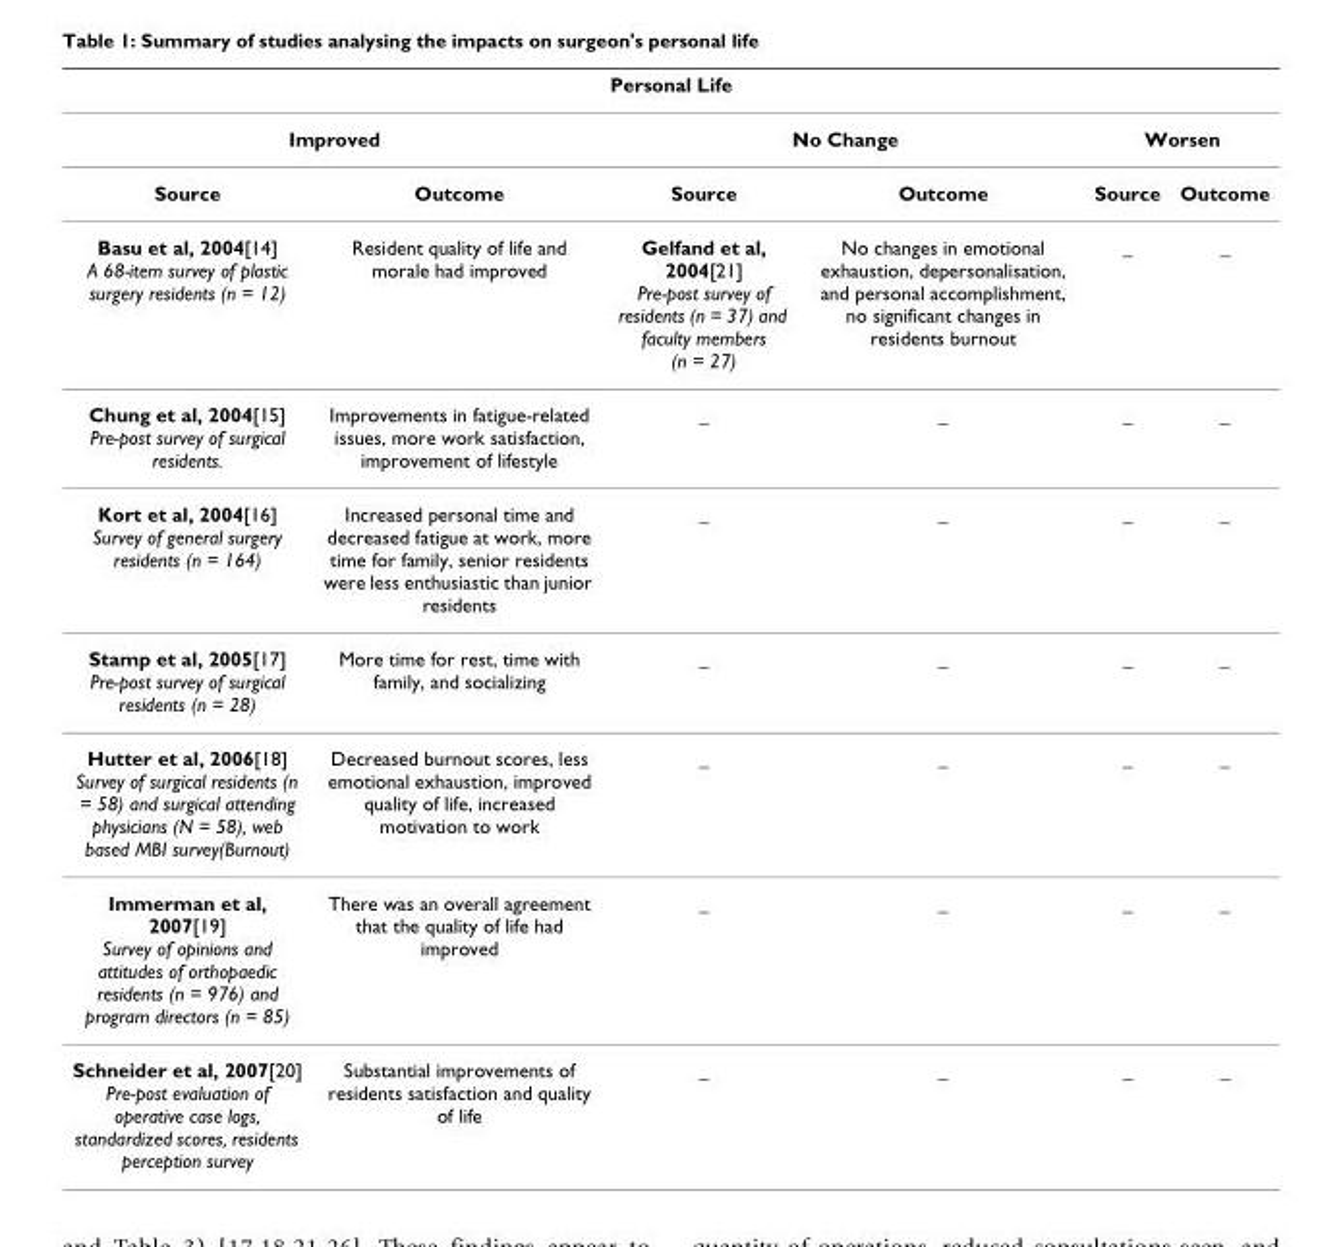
<table><thead><tr><td colspan="6">Personal Life</td></tr><tr><td colspan="2">Improved</td><td colspan="2">No Change</td><td colspan="2">Worsen</td></tr><tr><td>Source</td><td>Outcome</td><td>Source</td><td>Outcome</td><td>Source</td><td>Outcome</td></tr></thead><tbody><tr><td>Basu et al, 2004[14] A 68-item survey of plastic surgery residents (n = 12)</td><td>Resident quality of life and morale had improved</td><td>Gelfand et al, 2004[21] Pre-post survey of residents (n = 37) and faculty members (n = 27)</td><td>No changes in emotional exhaustion, depersonalisation, and personal accomplishment, no significant changes in residents burnout</td><td>_</td><td>_</td></tr><tr><td>Chung et al, 2004[15] Pre-post survey of surgical residents.</td><td>Improvements in fatigue-related issues, more work satisfaction, improvement of lifestyle</td><td>_</td><td>_</td><td>_</td><td>_</td></tr><tr><td>Kort et al, 2004[16] Survey of general surgery residents (n = 164)</td><td>Increased personal time and decreased fatigue at work, more time for family, senior residents were less enthusiastic than junior residents</td><td>_</td><td>_</td><td>_</td><td>_</td></tr><tr><td>Stamp et al, 2005[17] Pre-post survey of surgical residents (n = 28)</td><td>More time for rest, time with family, and socializing</td><td>_</td><td>_</td><td>_</td><td>_</td></tr><tr><td>Hutter et al, 2006[18] Survey of surgical residents (n = 58) and surgical attending physicians (N = 58), web based MBI survey(Burnout)</td><td>Decreased burnout scores, less emotional exhaustion, improved quality of life, increased motivation to work</td><td>_</td><td>_</td><td>_</td><td>_</td></tr><tr><td>Immerman et al, 2007[19] Survey of opinions and attitudes of orthopaedic residents (n = 976) and program directors (n = 85)</td><td>There was an overall agreement that the quality of life had improved</td><td>_</td><td>_</td><td>_</td><td>_</td></tr><tr><td>Schneider et al, 2007[20] Pre-post evaluation of operative case logs, standardized scores, residents perception survey</td><td>Substantial improvements of residents satisfaction and quality of life</td><td>_</td><td>_</td><td>_</td><td>_</td></tr></tbody></table>